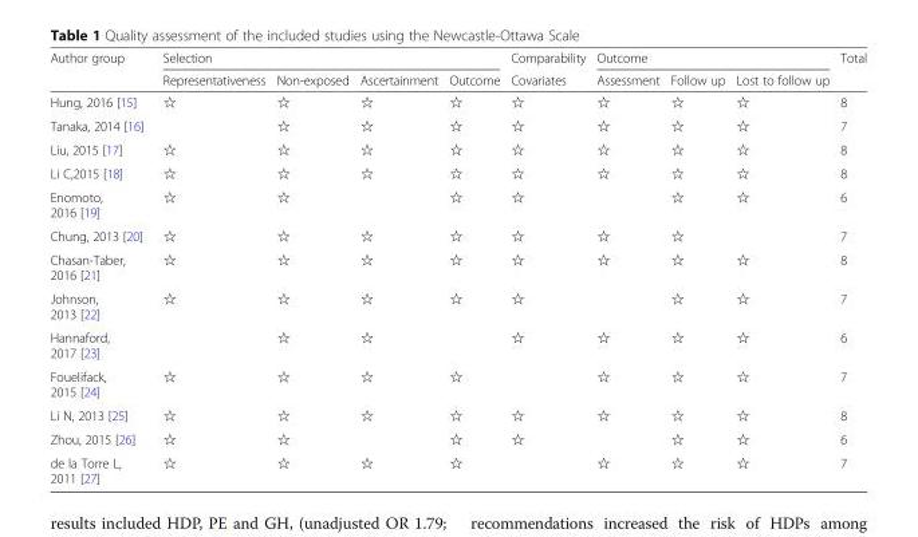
<table><thead><tr><td rowspan="2">Author group</td><td colspan="4">Selection</td><td rowspan="2">Comparability Covariates</td><td colspan="3">Outcome</td><td rowspan="2">Total</td></tr><tr><td>Representativeness</td><td>Non-exposed</td><td>Ascertainment</td><td>Outcome</td><td>Assessment</td><td>Follow up</td><td>Lost to follow up</td></tr></thead><tbody><tr><td>Hung, 2016 [15]</td><td>☆</td><td>☆</td><td>☆</td><td>☆</td><td>☆</td><td>☆</td><td>☆</td><td>☆</td><td>8</td></tr><tr><td>Tanaka, 2014 [16]</td><td></td><td>☆</td><td>☆</td><td>☆</td><td>☆</td><td>☆</td><td>☆</td><td>☆</td><td>7</td></tr><tr><td>Liu, 2015 [17]</td><td>☆</td><td>☆</td><td>☆</td><td>☆</td><td>☆</td><td>☆</td><td>☆</td><td>☆</td><td>8</td></tr><tr><td>Li C,2015 [18]</td><td>☆</td><td>☆</td><td>☆</td><td>☆</td><td>☆</td><td>☆</td><td>☆</td><td>☆</td><td>8</td></tr><tr><td>Enomoto, 2016 [19]</td><td>☆</td><td>☆</td><td></td><td>☆</td><td>☆</td><td></td><td>☆</td><td>☆</td><td>6</td></tr><tr><td>Chung, 2013 [20]</td><td>☆</td><td>☆</td><td>☆</td><td>☆</td><td>☆</td><td>☆</td><td>☆</td><td></td><td>7</td></tr><tr><td>Chasan-Taber, 2016 [21]</td><td>☆</td><td>☆</td><td>☆</td><td>☆</td><td>☆</td><td>☆</td><td>☆</td><td>☆</td><td>8</td></tr><tr><td>Johnson, 2013 [22]</td><td>☆</td><td>☆</td><td>☆</td><td>☆</td><td>☆</td><td></td><td>☆</td><td>☆</td><td>7</td></tr><tr><td>Hannaford, 2017 [23]</td><td></td><td>☆</td><td>☆</td><td></td><td>☆</td><td>☆</td><td>☆</td><td>☆</td><td>6</td></tr><tr><td>Fouelifack, 2015 [24]</td><td>☆</td><td>☆</td><td>☆</td><td>☆</td><td></td><td>☆</td><td>☆</td><td>☆</td><td>7</td></tr><tr><td>Li N, 2013 [25]</td><td>☆</td><td>☆</td><td>☆</td><td>☆</td><td>☆</td><td>☆</td><td>☆</td><td>☆</td><td>8</td></tr><tr><td>Zhou, 2015 [26]</td><td>☆</td><td>☆</td><td></td><td>☆</td><td>☆</td><td></td><td>☆</td><td>☆</td><td>6</td></tr><tr><td>de la Torre L, 2011 [27]</td><td>☆</td><td>☆</td><td>☆</td><td>☆</td><td></td><td>☆</td><td>☆</td><td>☆</td><td>7</td></tr></tbody></table>